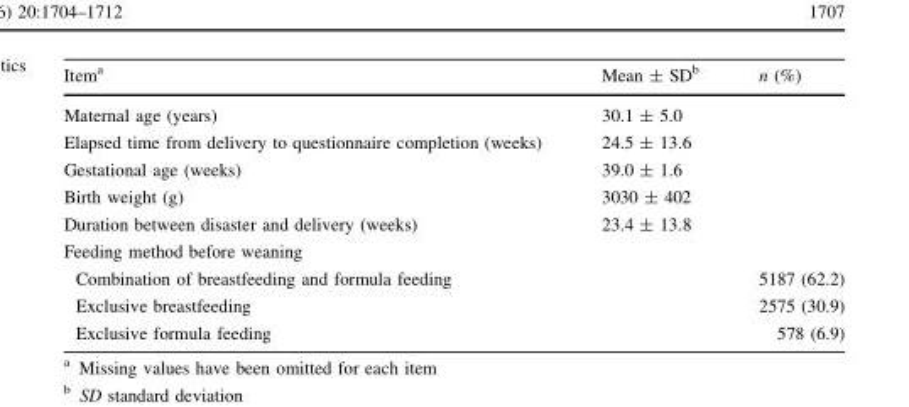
<table><thead><tr><td>Item<sup>a</sup></td><td>Mean ± SD<sup>b</sup></td><td>n (%)</td></tr></thead><tbody><tr><td>Maternal age (years)</td><td>30.1 ± 5.0</td><td></td></tr><tr><td>Elapsed time from delivery to questionnaire completion (weeks)</td><td>24.5 ± 13.6</td><td></td></tr><tr><td>Gestational age (weeks)</td><td>39.0 ± 1.6</td><td></td></tr><tr><td>Birth weight (g)</td><td>3030 ± 402</td><td></td></tr><tr><td>Duration between disaster and delivery (weeks)</td><td>23.4 ± 13.8</td><td></td></tr><tr><td colspan="3">Feeding method before weaning</td></tr><tr><td>Combination of breastfeeding and formula feeding</td><td></td><td>5187 (62.2)</td></tr><tr><td>Exclusive breastfeeding</td><td></td><td>2575 (30.9)</td></tr><tr><td>Exclusive formula feeding</td><td></td><td>578 (6.9)</td></tr></tbody></table>